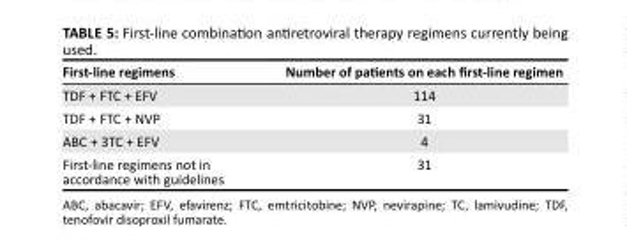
<table><thead><tr><td>First-line regimens</td><td>Number of patients on each first-line regimen</td></tr></thead><tbody><tr><td>TDF + FTC + EFV</td><td>114</td></tr><tr><td>TDF + FTC + NVP</td><td>31</td></tr><tr><td>ABC + 3TC + EFV</td><td>4</td></tr><tr><td>First-line regimens not in accordance with guidelines</td><td>31</td></tr></tbody></table>